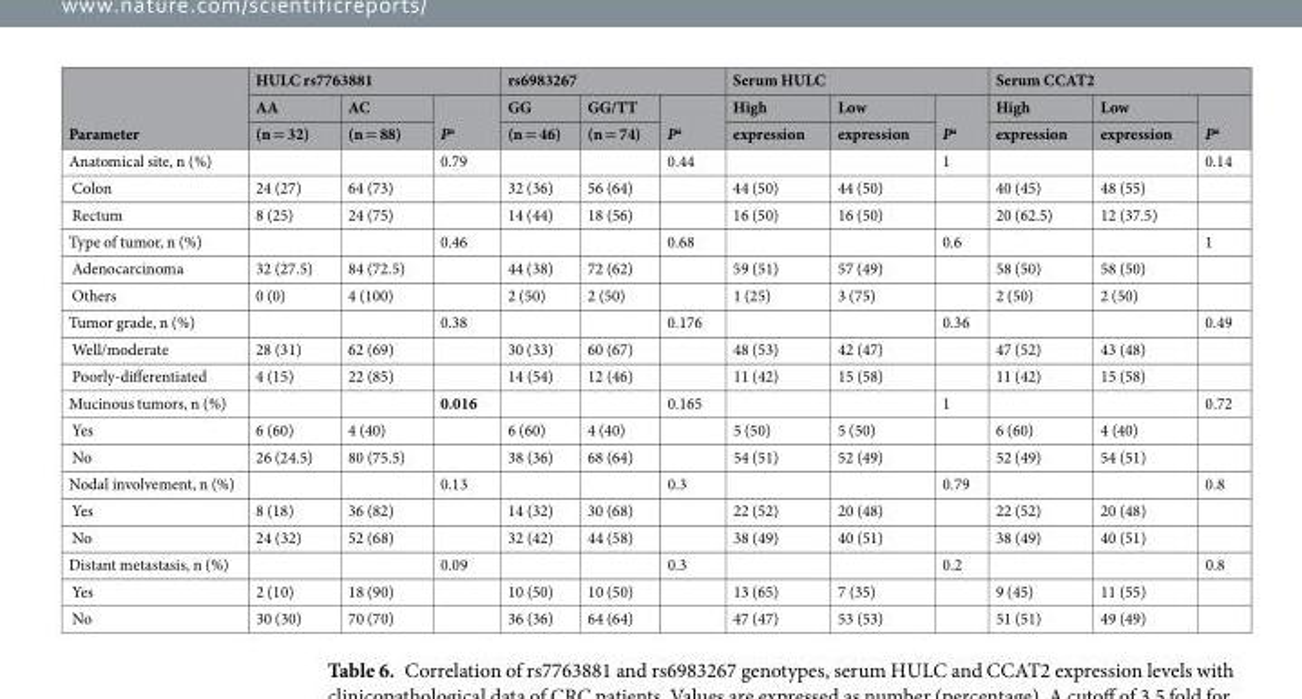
<table><thead><tr><td rowspan="3">Parameter</td><td colspan="3">HULC rs7763881</td><td colspan="3">rs6983267</td><td colspan="3">Serum HULC</td><td colspan="3">Serum CCAT2</td></tr><tr><td rowspan="2">AA (n = 32)</td><td rowspan="2">AC (n = 88)</td><td rowspan="2">P<sup>a</sup></td><td rowspan="2">GG (n = 46)</td><td rowspan="2">GG/TT (n = 74)</td><td rowspan="2">P<sup>a</sup></td><td rowspan="2">High expression</td><td rowspan="2">Low expression</td><td rowspan="2">P<sup>a</sup></td><td rowspan="2">High expression</td><td rowspan="2">Low expression</td><td rowspan="2">P<sup>a</sup></td></tr><tr></tr></thead><tbody><tr><td>Anatomical site, n (%)</td><td></td><td></td><td>0.79</td><td></td><td></td><td>0.44</td><td></td><td></td><td>1</td><td></td><td></td><td>0.14</td></tr><tr><td>Colon</td><td>24 (27)</td><td>64 (73)</td><td></td><td>32 (36)</td><td>56 (64)</td><td></td><td>44 (50)</td><td>44 (50)</td><td></td><td>40 (45)</td><td>48 (55)</td><td></td></tr><tr><td>Rectum</td><td>8 (25)</td><td>24 (75)</td><td></td><td>14 (44)</td><td>18 (56)</td><td></td><td>16 (50)</td><td>16 (50)</td><td></td><td>20 (62.5)</td><td>12 (37.5)</td><td></td></tr><tr><td>Type of tumor, n (%)</td><td></td><td></td><td>0.46</td><td></td><td></td><td>0.68</td><td></td><td></td><td>0.6</td><td></td><td></td><td>1</td></tr><tr><td>Adenocarcinoma</td><td>32 (27.5)</td><td>84 (72.5)</td><td></td><td>44 (38)</td><td>72 (62)</td><td></td><td>59 (51)</td><td>57 (49)</td><td></td><td>58 (50)</td><td>58 (50)</td><td></td></tr><tr><td>Others</td><td>0 (0)</td><td>4 (100)</td><td></td><td>2 (50)</td><td>2 (50)</td><td></td><td>1 (25)</td><td>3 (75)</td><td></td><td>2 (50)</td><td>2 (50)</td><td></td></tr><tr><td>Tumor grade, n (%)</td><td></td><td></td><td>0.38</td><td></td><td></td><td>0.176</td><td></td><td></td><td>0.36</td><td></td><td></td><td>0.49</td></tr><tr><td>Well/moderate</td><td>28 (31)</td><td>62 (69)</td><td></td><td>30 (33)</td><td>60 (67)</td><td></td><td>48 (53)</td><td>42 (47)</td><td></td><td>47 (52)</td><td>43 (48)</td><td></td></tr><tr><td>Poorly-differentiated</td><td>4 (15)</td><td>22 (85)</td><td></td><td>14 (54)</td><td>12 (46)</td><td></td><td>11 (42)</td><td>15 (58)</td><td></td><td>11 (42)</td><td>15 (58)</td><td></td></tr><tr><td>Mucinous tumors, n (%)</td><td></td><td></td><td>0.016</td><td></td><td></td><td>0.165</td><td></td><td></td><td>1</td><td></td><td></td><td>0.72</td></tr><tr><td>Yes</td><td>6 (60)</td><td>4 (40)</td><td></td><td>6 (60)</td><td>4 (40)</td><td></td><td>5 (50)</td><td>5 (50)</td><td></td><td>6 (60)</td><td>4 (40)</td><td></td></tr><tr><td>No</td><td>26 (24.5)</td><td>80 (75.5)</td><td></td><td>38 (36)</td><td>68 (64)</td><td></td><td>54 (51)</td><td>52 (49)</td><td></td><td>52 (49)</td><td>54 (51)</td><td></td></tr><tr><td>Nodal involvement, n (%)</td><td></td><td></td><td>0.13</td><td></td><td></td><td>0.3</td><td></td><td></td><td>0.79</td><td></td><td></td><td>0.8</td></tr><tr><td>Yes</td><td>8 (18)</td><td>36 (82)</td><td></td><td>14 (32)</td><td>30 (68)</td><td></td><td>22 (52)</td><td>20 (48)</td><td></td><td>22 (52)</td><td>20 (48)</td><td></td></tr><tr><td>No</td><td>24 (32)</td><td>52 (68)</td><td></td><td>32 (42)</td><td>44 (58)</td><td></td><td>38 (49)</td><td>40 (51)</td><td></td><td>38 (49)</td><td>40 (51)</td><td></td></tr><tr><td>Distant metastasis, n (%)</td><td></td><td></td><td>0.09</td><td></td><td></td><td>0.3</td><td></td><td></td><td>0.2</td><td></td><td></td><td>0.8</td></tr><tr><td>Yes</td><td>2 (10)</td><td>18 (90)</td><td></td><td>10 (50)</td><td>10 (50)</td><td></td><td>13 (65)</td><td>7 (35)</td><td></td><td>9 (45)</td><td>11 (55)</td><td></td></tr><tr><td>No</td><td>30 (30)</td><td>70 (70)</td><td></td><td>36 (36)</td><td>64 (64)</td><td></td><td>47 (47)</td><td>53 (53)</td><td></td><td>51 (51)</td><td>49 (49)</td><td></td></tr></tbody></table>